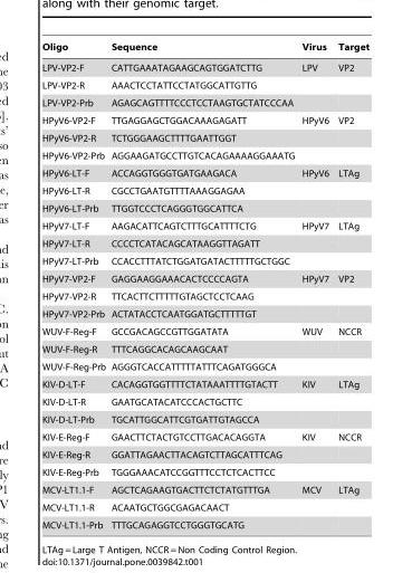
<table><thead><tr><td>Oligo</td><td>Sequence</td><td>Virus</td><td>Target</td></tr></thead><tbody><tr><td>LPV-VP2-F</td><td>CATTGAAATAGAAGCAGTGGATCTTG</td><td>LPV</td><td>VP2</td></tr><tr><td>LPV-VP2-R</td><td>AAACTCCTATTCCTATGGCATTGTTG</td><td></td><td></td></tr><tr><td>LPV-VP2-Prb</td><td>AGAGCAGTTTTCCCTCCTAAGTGCTATCCCAA</td><td></td><td></td></tr><tr><td>HPyV6-VP2-F</td><td>TTGAGGAGCTGGACAAAGAGATT</td><td>HPyV6</td><td>VP2</td></tr><tr><td>HPyV6-VP2-R</td><td>TCTGGGAAGCTTTTGAATTGGT</td><td></td><td></td></tr><tr><td>HPyV6-VP2-Prb</td><td>AGGAAGATGCCTTGTCACAGAAAAGGAAATG</td><td></td><td></td></tr><tr><td>HPyV6-LT-F</td><td>ACCAGGTGGGTGATGAAGACA</td><td>HPyV6</td><td>LTAg</td></tr><tr><td>HPyV6-LT-R</td><td>CGCCTGAATGTTTTAAAGGAGAA</td><td></td><td></td></tr><tr><td>HPyV6-LT-Prb</td><td>TTGGTCCCTCAGGGTGGCATTCA</td><td></td><td></td></tr><tr><td>HPyV7-LT-F</td><td>AAGACATTCAGTCTTTGCATTTTCTG</td><td>HPyV7</td><td>LTAg</td></tr><tr><td>HPyV7-LT-R</td><td>CCCCTCATACAGCATAAGGTTAGATT</td><td></td><td></td></tr><tr><td>HPyV7-LT-Prb</td><td>CCACCTTTATCTGGATGATACTTTTTGCTGGC</td><td></td><td></td></tr><tr><td>HPyV7-VP2-F</td><td>GAGGAAGGAAACACTCCCCAGTA</td><td>HPyV7</td><td>VP2</td></tr><tr><td>HPyV7-VP2-R</td><td>TTCACTTCTTTTTGTAGCTCCTCAAG</td><td></td><td></td></tr><tr><td>HPyV7-VP2-Prb</td><td>ACTATACCTCAATGGATGCTTTTTGT</td><td></td><td></td></tr><tr><td>WUV-F-Reg-F</td><td>GCCGACAGCCGTTGGATATA</td><td>WUV</td><td>NCCR</td></tr><tr><td>WUV-F-Reg-R</td><td>TTTCAGGCACAGCAAGCAAT</td><td></td><td></td></tr><tr><td>WUV-F-Reg-Prb</td><td>AGGGTCACCATTTTTATTTCAGATGGGCA</td><td></td><td></td></tr><tr><td>KIV-D-LT-F</td><td>CACAGGTGGTTTTCTATAAATTTTGTACTT</td><td>KIV</td><td>LTAg</td></tr><tr><td>KIV-D-LT-R</td><td>GAATGCATACATCCCACTGCTTC</td><td></td><td></td></tr><tr><td>KIV-D-LT-Prb</td><td>TGCATTGGCATTCGTGATTGTAGCCA</td><td></td><td></td></tr><tr><td>KIV-E-Reg-F</td><td>GAACTTCTACTGTCCTTGACACAGGTA</td><td>KIV</td><td>NCCR</td></tr><tr><td>KIV-E-Reg-R</td><td>GGATTAGAACTTACAGTCTTAGCATTTCAG</td><td></td><td></td></tr><tr><td>KIV-E-Reg-Prb</td><td>TGGGAAACATCCGGTTTCCTCTCACTTCC</td><td></td><td></td></tr><tr><td>MCV-LT1.1-F</td><td>AGCTCAGAAGTGACTTCTCTATGTTTGA</td><td>MCV</td><td>LTAg</td></tr><tr><td>MCV-LT1.1-R</td><td>ACAATGCTGGCGAGACAACT</td><td></td><td></td></tr><tr><td>MCV-LT1.1-Prb</td><td>TTTGCAGAGGTCCTGGGTGCATG</td><td></td><td></td></tr></tbody></table>